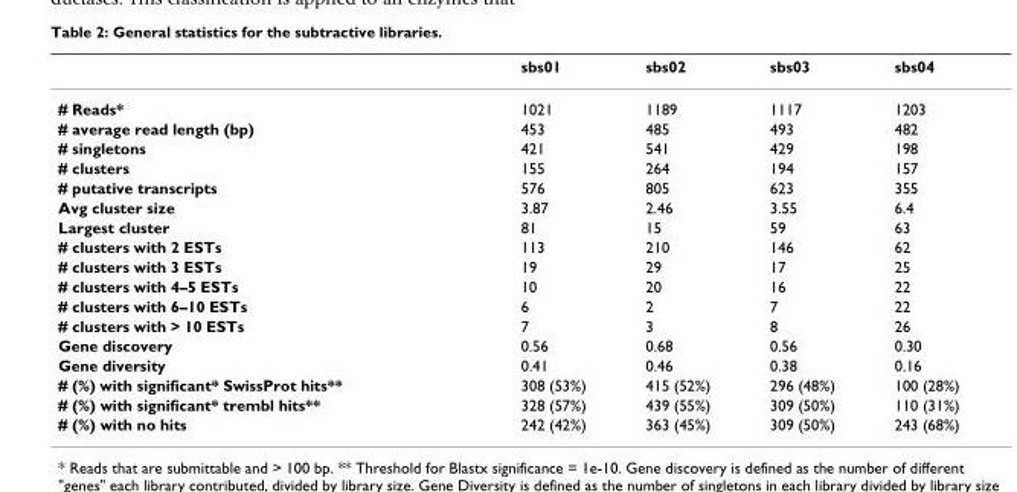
<table><thead><tr><td></td><td>sbs01</td><td>sbs02</td><td>sbs03</td><td>sbs04</td></tr></thead><tbody><tr><td># Reads*</td><td>1021</td><td>1189</td><td>1117</td><td>1203</td></tr><tr><td># average read length (bp)</td><td>453</td><td>485</td><td>493</td><td>482</td></tr><tr><td># singletons</td><td>421</td><td>541</td><td>429</td><td>198</td></tr><tr><td># clusters</td><td>155</td><td>264</td><td>194</td><td>157</td></tr><tr><td># putative transcripts</td><td>576</td><td>805</td><td>623</td><td>355</td></tr><tr><td>Avg cluster size</td><td>3.87</td><td>2.46</td><td>3.55</td><td>6.4</td></tr><tr><td>Largest cluster</td><td>81</td><td>15</td><td>59</td><td>63</td></tr><tr><td># clusters with 2 ESTs</td><td>113</td><td>210</td><td>146</td><td>62</td></tr><tr><td># clusters with 3 ESTs</td><td>19</td><td>29</td><td>17</td><td>25</td></tr><tr><td># clusters with 4–5 ESTs</td><td>10</td><td>20</td><td>16</td><td>22</td></tr><tr><td># clusters with 6–10 ESTs</td><td>6</td><td>2</td><td>7</td><td>22</td></tr><tr><td># clusters with &gt; 10 ESTs</td><td>7</td><td>3</td><td>8</td><td>26</td></tr><tr><td>Gene discovery</td><td>0.56</td><td>0.68</td><td>0.56</td><td>0.30</td></tr><tr><td>Gene diversity</td><td>0.41</td><td>0.46</td><td>0.38</td><td>0.16</td></tr><tr><td># (%) with significant* SwissProt hits**</td><td>308 (53%)</td><td>415 (52%)</td><td>296 (48%)</td><td>100 (28%)</td></tr><tr><td># (%) with significant* trembl hits**</td><td>328 (57%)</td><td>439 (55%)</td><td>309 (50%)</td><td>110 (31%)</td></tr><tr><td># (%) with no hits</td><td>242 (42%)</td><td>363 (45%)</td><td>309 (50%)</td><td>243 (68%)</td></tr></tbody></table>